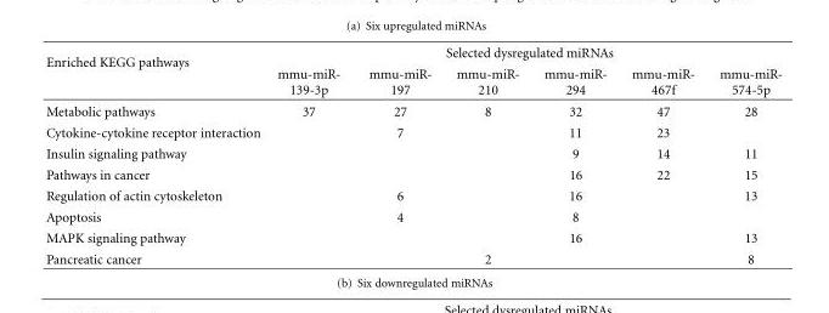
<table><thead><tr><td rowspan="2">Enriched KEGG pathways</td><td colspan="6">Selected dysregulated miRNAs</td></tr><tr><td>mmu-miR- 139-3p</td><td>mmu-miR- 197</td><td>mmu-miR- 210</td><td>mmu-miR- 294</td><td>mmu-miR- 467f</td><td>mmu-miR- 574-5p</td></tr></thead><tbody><tr><td>Metabolic pathways</td><td>37</td><td>27</td><td>8</td><td>32</td><td>47</td><td>28</td></tr><tr><td>Cytokine-cytokine receptor interaction</td><td></td><td>7</td><td></td><td>11</td><td>23</td><td></td></tr><tr><td>Insulin signaling pathway</td><td></td><td></td><td></td><td>9</td><td>14</td><td>11</td></tr><tr><td>Pathways in cancer</td><td></td><td></td><td></td><td>16</td><td>22</td><td>15</td></tr><tr><td>Regulation of actin cytoskeleton</td><td></td><td>6</td><td></td><td>16</td><td></td><td>13</td></tr><tr><td>Apoptosis</td><td></td><td>4</td><td></td><td>8</td><td></td><td></td></tr><tr><td>MAPK signaling pathway</td><td></td><td></td><td></td><td>16</td><td></td><td>13</td></tr><tr><td>Pancreatic cancer</td><td></td><td></td><td>2</td><td></td><td></td><td>8</td></tr></tbody></table>